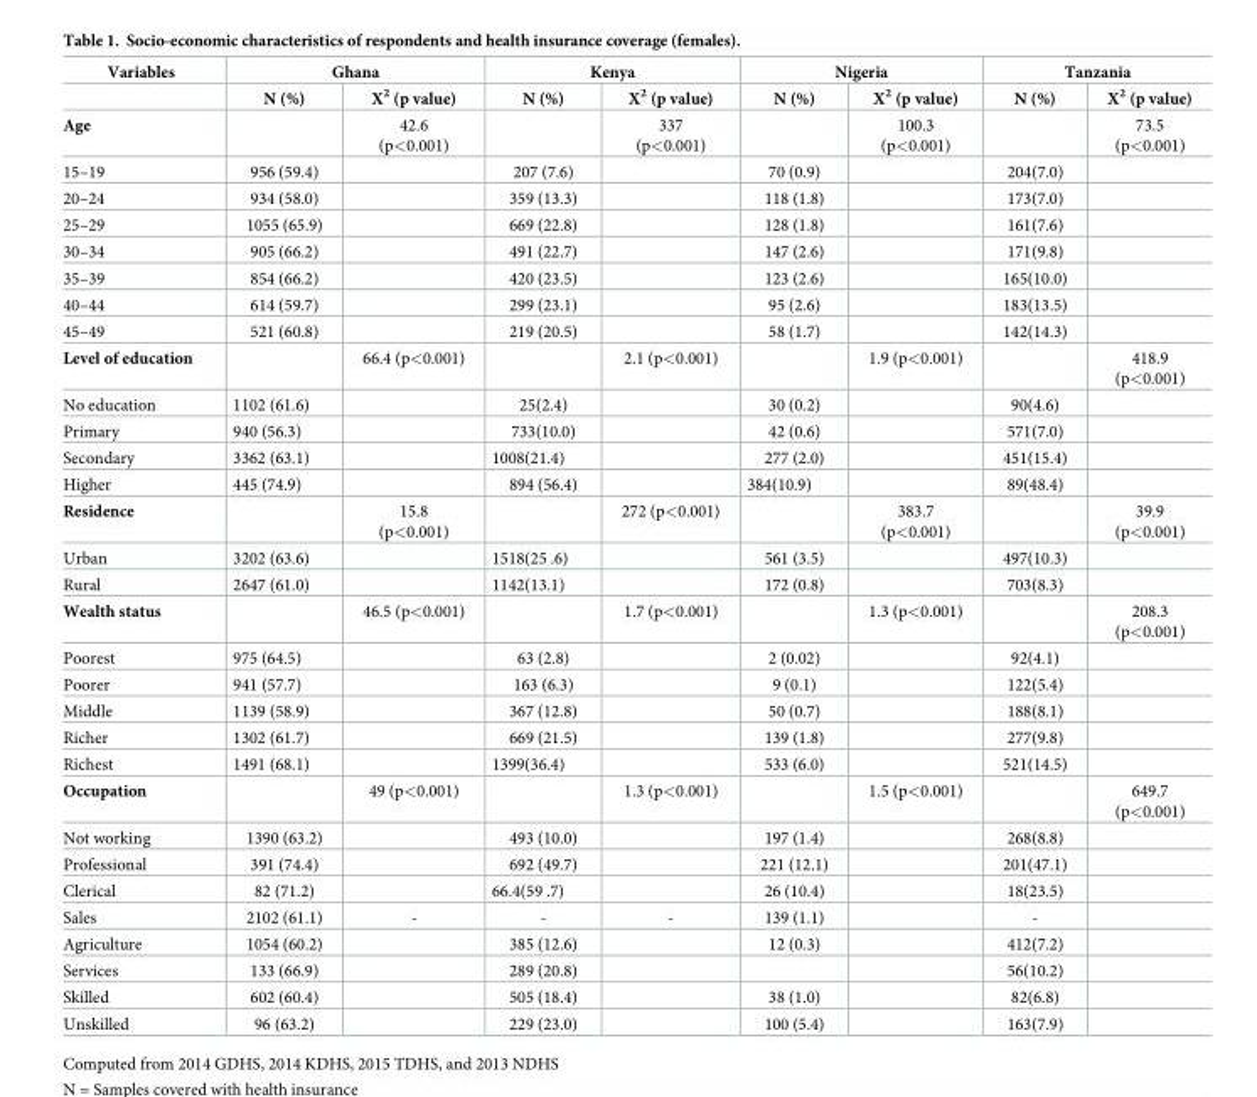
<table><thead><tr><td rowspan="2">Variables</td><td colspan="2">Ghana</td><td colspan="2">Kenya</td><td colspan="2">Nigeria</td><td colspan="2">Tanzania</td></tr><tr><td>N (%)</td><td>X<sup>2</sup> (p value)</td><td>N (%)</td><td>X<sup>2</sup> (p value)</td><td>N (%)</td><td>X<sup>2</sup> (p value)</td><td>N (%)</td><td>X<sup>2</sup> (p value)</td></tr></thead><tbody><tr><td>Age</td><td></td><td>42.6 (p&lt;0.001)</td><td></td><td>337 (p&lt;0.001)</td><td></td><td>100.3 (p&lt;0.001)</td><td></td><td>73.5 (p&lt;0.001)</td></tr><tr><td>15–19</td><td>956 (59.4)</td><td></td><td>207 (7.6)</td><td></td><td>70 (0.9)</td><td></td><td>204(7.0)</td><td></td></tr><tr><td>20–24</td><td>934 (58.0)</td><td></td><td>359 (13.3)</td><td></td><td>118 (1.8)</td><td></td><td>173(7.0)</td><td></td></tr><tr><td>25–29</td><td>1055 (65.9)</td><td></td><td>669 (22.8)</td><td></td><td>128 (1.8)</td><td></td><td>161(7.6)</td><td></td></tr><tr><td>30–34</td><td>905 (66.2)</td><td></td><td>491 (22.7)</td><td></td><td>147 (2.6)</td><td></td><td>171(9.8)</td><td></td></tr><tr><td>35–39</td><td>854 (66.2)</td><td></td><td>420 (23.5)</td><td></td><td>123 (2.6)</td><td></td><td>165(10.0)</td><td></td></tr><tr><td>40–44</td><td>614 (59.7)</td><td></td><td>299 (23.1)</td><td></td><td>95 (2.6)</td><td></td><td>183(13.5)</td><td></td></tr><tr><td>45–49</td><td>521 (60.8)</td><td></td><td>219 (20.5)</td><td></td><td>58 (1.7)</td><td></td><td>142(14.3)</td><td></td></tr><tr><td>Level of education</td><td></td><td>66.4 (p&lt;0.001)</td><td></td><td>2.1 (p&lt;0.001)</td><td></td><td>1.9 (p&lt;0.001)</td><td></td><td>418.9 (p&lt;0.001)</td></tr><tr><td>No education</td><td>1102 (61.6)</td><td></td><td>25(2.4)</td><td></td><td>30 (0.2)</td><td></td><td>90(4.6)</td><td></td></tr><tr><td>Primary</td><td>940 (56.3)</td><td></td><td>733(10.0)</td><td></td><td>42 (0.6)</td><td></td><td>571(7.0)</td><td></td></tr><tr><td>Secondary</td><td>3362 (63.1)</td><td></td><td>1008(21.4)</td><td></td><td>277 (2.0)</td><td></td><td>451(15.4)</td><td></td></tr><tr><td>Higher</td><td>445 (74.9)</td><td></td><td>894 (56.4)</td><td></td><td>384(10.9)</td><td></td><td>89(48.4)</td><td></td></tr><tr><td>Residence</td><td></td><td>15.8 (p&lt;0.001)</td><td></td><td>272 (p&lt;0.001)</td><td></td><td>383.7 (p&lt;0.001)</td><td></td><td>39.9 (p&lt;0.001)</td></tr><tr><td>Urban</td><td>3202 (63.6)</td><td></td><td>1518(25 .6)</td><td></td><td>561 (3.5)</td><td></td><td>497(10.3)</td><td></td></tr><tr><td>Rural</td><td>2647 (61.0)</td><td></td><td>1142(13.1)</td><td></td><td>172 (0.8)</td><td></td><td>703(8.3)</td><td></td></tr><tr><td>Wealth status</td><td></td><td>46.5 (p&lt;0.001)</td><td></td><td>1.7 (p&lt;0.001)</td><td></td><td>1.3 (p&lt;0.001)</td><td></td><td>208.3 (p&lt;0.001)</td></tr><tr><td>Poorest</td><td>975 (64.5)</td><td></td><td>63 (2.8)</td><td></td><td>2 (0.02)</td><td></td><td>92(4.1)</td><td></td></tr><tr><td>Poorer</td><td>941 (57.7)</td><td></td><td>163 (6.3)</td><td></td><td>9 (0.1)</td><td></td><td>122(5.4)</td><td></td></tr><tr><td>Middle</td><td>1139 (58.9)</td><td></td><td>367 (12.8)</td><td></td><td>50 (0.7)</td><td></td><td>188(8.1)</td><td></td></tr><tr><td>Richer</td><td>1302 (61.7)</td><td></td><td>669 (21.5)</td><td></td><td>139 (1.8)</td><td></td><td>277(9.8)</td><td></td></tr><tr><td>Richest</td><td>1491 (68.1)</td><td></td><td>1399(36.4)</td><td></td><td>533 (6.0)</td><td></td><td>521(14.5)</td><td></td></tr><tr><td>Occupation</td><td></td><td>49 (p&lt;0.001)</td><td></td><td>1.3 (p&lt;0.001)</td><td></td><td>1.5 (p&lt;0.001)</td><td></td><td>649.7 (p&lt;0.001)</td></tr><tr><td>Not working</td><td>1390 (63.2)</td><td></td><td>493 (10.0)</td><td></td><td>197 (1.4)</td><td></td><td>268(8.8)</td><td></td></tr><tr><td>Professional</td><td>391 (74.4)</td><td></td><td>692 (49.7)</td><td></td><td>221 (12.1)</td><td></td><td>201(47.1)</td><td></td></tr><tr><td>Clerical</td><td>82 (71.2)</td><td></td><td>66.4(59 .7)</td><td></td><td>26 (10.4)</td><td></td><td>18(23.5)</td><td></td></tr><tr><td>Sales</td><td>2102 (61.1)</td><td>-</td><td>-</td><td>-</td><td>139 (1.1)</td><td></td><td>-</td><td></td></tr><tr><td>Agriculture</td><td>1054 (60.2)</td><td></td><td>385 (12.6)</td><td></td><td>12 (0.3)</td><td></td><td>412(7.2)</td><td></td></tr><tr><td>Services</td><td>133 (66.9)</td><td></td><td>289 (20.8)</td><td></td><td></td><td></td><td>56(10.2)</td><td></td></tr><tr><td>Skilled</td><td>602 (60.4)</td><td></td><td>505 (18.4)</td><td></td><td>38 (1.0)</td><td></td><td>82(6.8)</td><td></td></tr><tr><td>Unskilled</td><td>96 (63.2)</td><td></td><td>229 (23.0)</td><td></td><td>100 (5.4)</td><td></td><td>163(7.9)</td><td></td></tr></tbody></table>